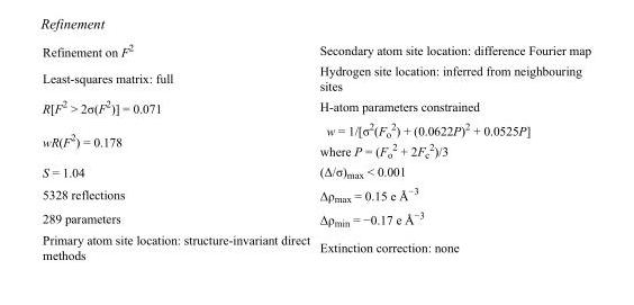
<table><tbody><tr><td>Refinement on F<sup>2</sup></td><td>Secondary atom site location: difference Fourier map</td></tr><tr><td>Least-squares matrix: full</td><td>Hydrogen site location: inferred from neighbouring sites</td></tr><tr><td>R[F<sup>2</sup> &gt; 2σ(F<sup>2</sup>)] = 0.071</td><td>H-atom parameters constrained</td></tr><tr><td>wR(F<sup>2</sup>) = 0.178</td><td>w = 1/[σ<sup>2</sup>(F<sub>o</sub> <sup>2</sup>) + (0.0622P)<sup>2</sup> + 0.0525P] where P = (F<sub>o</sub> <sup>2</sup> + 2F<sub>c</sub> <sup>2</sup>)/3</td></tr><tr><td>S = 1.04</td><td>(Δ/σ)<sub>max</sub> &lt; 0.001</td></tr><tr><td>5328 reflections</td><td>Δρ<sub>max</sub> = 0.15 e Å<sup>−3</sup></td></tr><tr><td>289 parameters</td><td>Δρ<sub>min</sub> = −0.17 e Å<sup>−3</sup></td></tr><tr><td>Primary atom site location: structure-invariant direct methods</td><td>Extinction correction: none</td></tr></tbody></table>